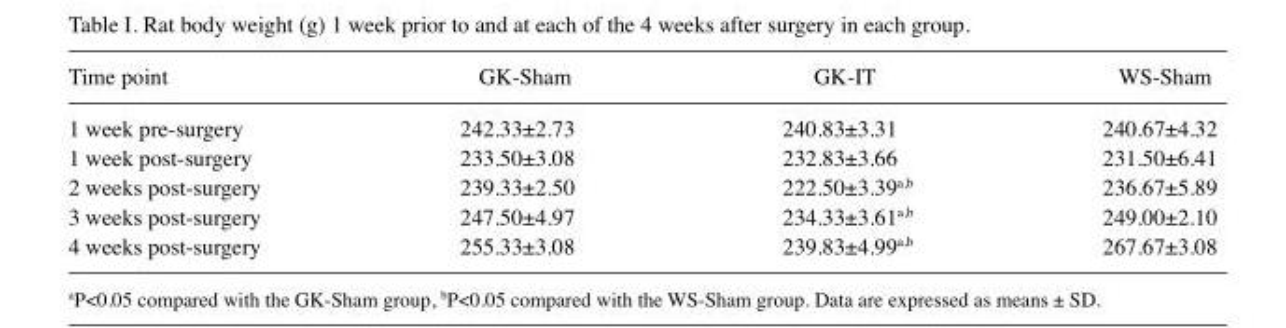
<table><thead><tr><td>Time point</td><td>GK-Sham</td><td>GK-IT</td><td>WS-Sham</td></tr></thead><tbody><tr><td>1 week pre-surgery</td><td>242.33±2.73</td><td>240.83±3.31</td><td>240.67±4.32</td></tr><tr><td>1 week post-surgery</td><td>233.50±3.08</td><td>232.83±3.66</td><td>231.50±6.41</td></tr><tr><td>2 weeks post-surgery</td><td>239.33±2.50</td><td>222.50±3.39<sup>a,b</sup></td><td>236.67±5.89</td></tr><tr><td>3 weeks post-surgery</td><td>247.50±4.97</td><td>234.33±3.61<sup>a,b</sup></td><td>249.00±2.10</td></tr><tr><td>4 weeks post-surgery</td><td>255.33±3.08</td><td>239.83±4.99<sup>a,b</sup></td><td>267.67±3.08</td></tr></tbody></table>